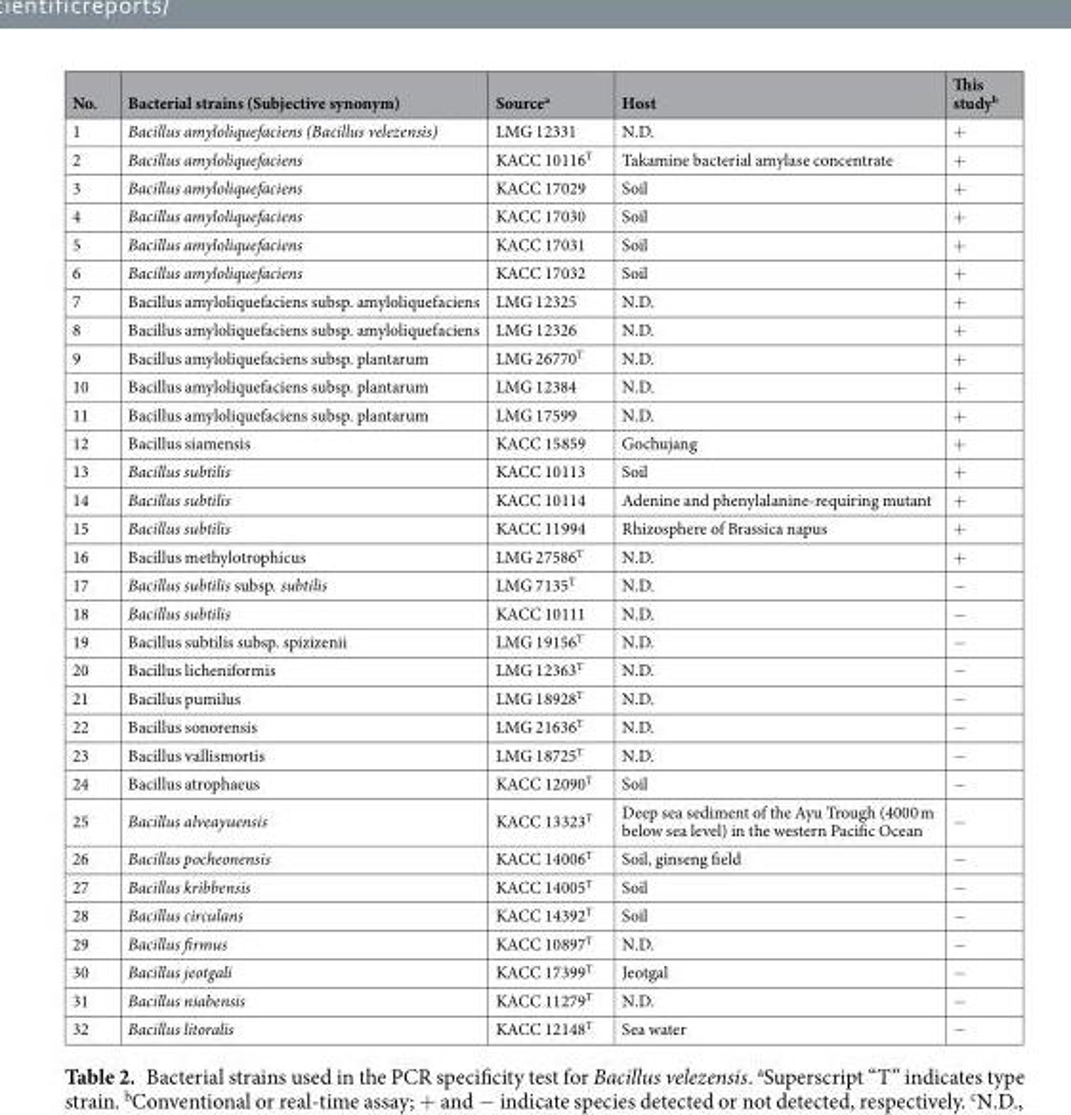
<table><thead><tr><td>No.</td><td>Bacterial strains (Subjective synonym)</td><td>Source<sup>a</sup></td><td>Host</td><td>This study<sup>b</sup></td></tr></thead><tbody><tr><td>1</td><td>Bacillus amyloliquefaciens (Bacillus velezensis)</td><td>LMG 12331</td><td>N.D.</td><td>+</td></tr><tr><td>2</td><td>Bacillus amyloliquefaciens</td><td>KACC 10116<sup>T</sup></td><td>Takamine bacterial amylase concentrate</td><td>+</td></tr><tr><td>3</td><td>Bacillus amyloliquefaciens</td><td>KACC 17029</td><td>Soil</td><td>+</td></tr><tr><td>4</td><td>Bacillus amyloliquefaciens</td><td>KACC 17030</td><td>Soil</td><td>+</td></tr><tr><td>5</td><td>Bacillus amyloliquefaciens</td><td>KACC 17031</td><td>Soil</td><td>+</td></tr><tr><td>6</td><td>Bacillus amyloliquefaciens</td><td>KACC 17032</td><td>Soil</td><td>+</td></tr><tr><td>7</td><td>Bacillus amyloliquefaciens subsp. amyloliquefaciens</td><td>LMG 12325</td><td>N.D.</td><td>+</td></tr><tr><td>8</td><td>Bacillus amyloliquefaciens subsp. amyloliquefaciens</td><td>LMG 12326</td><td>N.D.</td><td>+</td></tr><tr><td>9</td><td>Bacillus amyloliquefaciens subsp. plantarum</td><td>LMG 26770<sup>T</sup></td><td>N.D.</td><td>+</td></tr><tr><td>10</td><td>Bacillus amyloliquefaciens subsp. plantarum</td><td>LMG 12384</td><td>N.D.</td><td>+</td></tr><tr><td>11</td><td>Bacillus amyloliquefaciens subsp. plantarum</td><td>LMG 17599</td><td>N.D.</td><td>+</td></tr><tr><td>12</td><td>Bacillus siamensis</td><td>KACC 15859</td><td>Gochujang</td><td>+</td></tr><tr><td>13</td><td>Bacillus subtilis</td><td>KACC 10113</td><td>Soil</td><td>+</td></tr><tr><td>14</td><td>Bacillus subtilis</td><td>KACC 10114</td><td>Adenine and phenylalanine-requiring mutant</td><td>+</td></tr><tr><td>15</td><td>Bacillus subtilis</td><td>KACC 11994</td><td>Rhizosphere of Brassica napus</td><td>+</td></tr><tr><td>16</td><td>Bacillus methylotrophicus</td><td>LMG 27586<sup>T</sup></td><td>N.D.</td><td>+</td></tr><tr><td>17</td><td>Bacillus subtilis subsp. subtilis</td><td>LMG 7135<sup>T</sup></td><td>N.D.</td><td>−</td></tr><tr><td>18</td><td>Bacillus subtilis</td><td>KACC 10111</td><td>N.D.</td><td>−</td></tr><tr><td>19</td><td>Bacillus subtilis subsp. spizizenii</td><td>LMG 19156<sup>T</sup></td><td>N.D.</td><td>−</td></tr><tr><td>20</td><td>Bacillus licheniformis</td><td>LMG 12363<sup>T</sup></td><td>N.D.</td><td>−</td></tr><tr><td>21</td><td>Bacillus pumilus</td><td>LMG 18928<sup>T</sup></td><td>N.D.</td><td>−</td></tr><tr><td>22</td><td>Bacillus sonorensis</td><td>LMG 21636<sup>T</sup></td><td>N.D.</td><td>−</td></tr><tr><td>23</td><td>Bacillus vallismortis</td><td>LMG 18725<sup>T</sup></td><td>N.D.</td><td>−</td></tr><tr><td>24</td><td>Bacillus atrophaeus</td><td>KACC 12090<sup>T</sup></td><td>Soil</td><td>−</td></tr><tr><td>25</td><td>Bacillus alveayuensis</td><td>KACC 13323<sup>T</sup></td><td>Deep sea sediment of the Ayu Trough (4000 m below sea level) in the western Pacific Ocean</td><td>−</td></tr><tr><td>26</td><td>Bacillus pocheonensis</td><td>KACC 14006<sup>T</sup></td><td>Soil, ginseng field</td><td>−</td></tr><tr><td>27</td><td>Bacillus kribbensis</td><td>KACC 14005<sup>T</sup></td><td>Soil</td><td>−</td></tr><tr><td>28</td><td>Bacillus circulans</td><td>KACC 14392<sup>T</sup></td><td>Soil</td><td>−</td></tr><tr><td>29</td><td>Bacillus firmus</td><td>KACC 10897<sup>T</sup></td><td>N.D.</td><td>−</td></tr><tr><td>30</td><td>Bacillus jeotgali</td><td>KACC 17399<sup>T</sup></td><td>Jeotgal</td><td>−</td></tr><tr><td>31</td><td>Bacillus niabensis</td><td>KACC 11279<sup>T</sup></td><td>N.D.</td><td>−</td></tr><tr><td>32</td><td>Bacillus litoralis</td><td>KACC 12148<sup>T</sup></td><td>Sea water</td><td>−</td></tr></tbody></table>